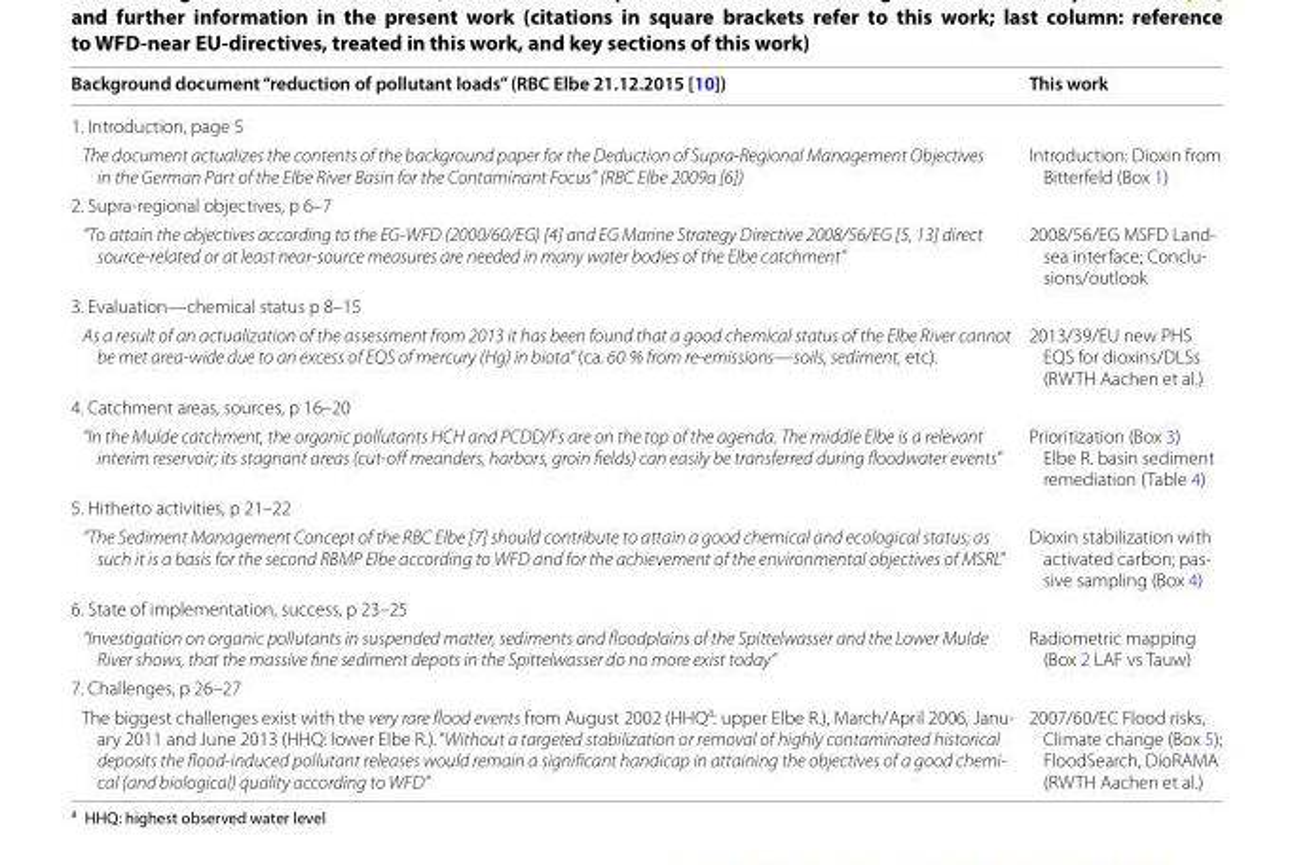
<table><thead><tr><td>Background document “reduction of pollutant loads” (RBC Elbe 21.12.2015 [10])</td><td>This work</td></tr></thead><tbody><tr><td colspan="2">1. Introduction, page 5</td></tr><tr><td>The document actualizes the contents of the background paper for the Deduction of Supra-Regional Management Objectives in the German Part of the Elbe River Basin for the Contaminant Focus” (RBC Elbe 2009a [6])</td><td>Introduction: Dioxin from Bitterfeld (Box 1)</td></tr><tr><td colspan="2">2. Supra-regional objectives, p 6–7</td></tr><tr><td>“To attain the objectives according to the EG-WFD (2000/60/EG) [4] and EG Marine Strategy Directive 2008/56/EG [5, 13] direct source-related or at least near-source measures are needed in many water bodies of the Elbe catchment”</td><td>2008/56/EG MSFD Land- sea interface; Conclu- sions/outlook</td></tr><tr><td colspan="2">3. Evaluation—chemical status p 8–15</td></tr><tr><td>As a result of an actualization of the assessment from 2013 it has been found that a good chemical status of the Elbe River cannot be met area-wide due to an excess of EQS of mercury (Hg) in biota” (ca. 60 % from re-emissions—soils, sediment, etc).</td><td>2013/39/EU new PHS EQS for dioxins/DLSs (RWTH Aachen et al.)</td></tr><tr><td colspan="2">4. Catchment areas, sources, p 16–20</td></tr><tr><td>“In the Mulde catchment, the organic pollutants HCH and PCDD/Fs are on the top of the agenda. The middle Elbe is a relevant interim reservoir; its stagnant areas (cut-off meanders, harbors, groin fields) can easily be transferred during floodwater events”</td><td>Prioritization (Box 3) Elbe R. basin sediment remediation (Table 4)</td></tr><tr><td colspan="2">5. Hitherto activities, p 21–22</td></tr><tr><td>“The Sediment Management Concept of the RBC Elbe [7] should contribute to attain a good chemical and ecological status; as such it is a basis for the second RBMP Elbe according to WFD and for the achievement of the environmental objectives of MSRL”</td><td>Dioxin stabilization with activated carbon; pas- sive sampling (Box 4)</td></tr><tr><td colspan="2">6. State of implementation, success, p 23–25</td></tr><tr><td>“Investigation on organic pollutants in suspended matter, sediments and floodplains of the Spittelwasser and the Lower Mulde River shows, that the massive fine sediment depots in the Spittelwasser do no more exist today”</td><td>Radiometric mapping (Box 2 LAF vs Tauw)</td></tr><tr><td colspan="2">7. Challenges, p 26–27</td></tr><tr><td>The biggest challenges exist with the very rare flood events from August 2002 (HHQa: upper Elbe R.), March/April 2006, Janu- ary 2011 and June 2013 (HHQ: lower Elbe R.). “Without a targeted stabilization or removal of highly contaminated historical deposits the flood-induced pollutant releases would remain a significant handicap in attaining the objectives of a good chemi- cal (and biological) quality according to WFD”</td><td>2007/60/EC Flood risks, Climate change (Box 5); FloodSearch, DioRAMA (RWTH Aachen et al.)</td></tr></tbody></table>